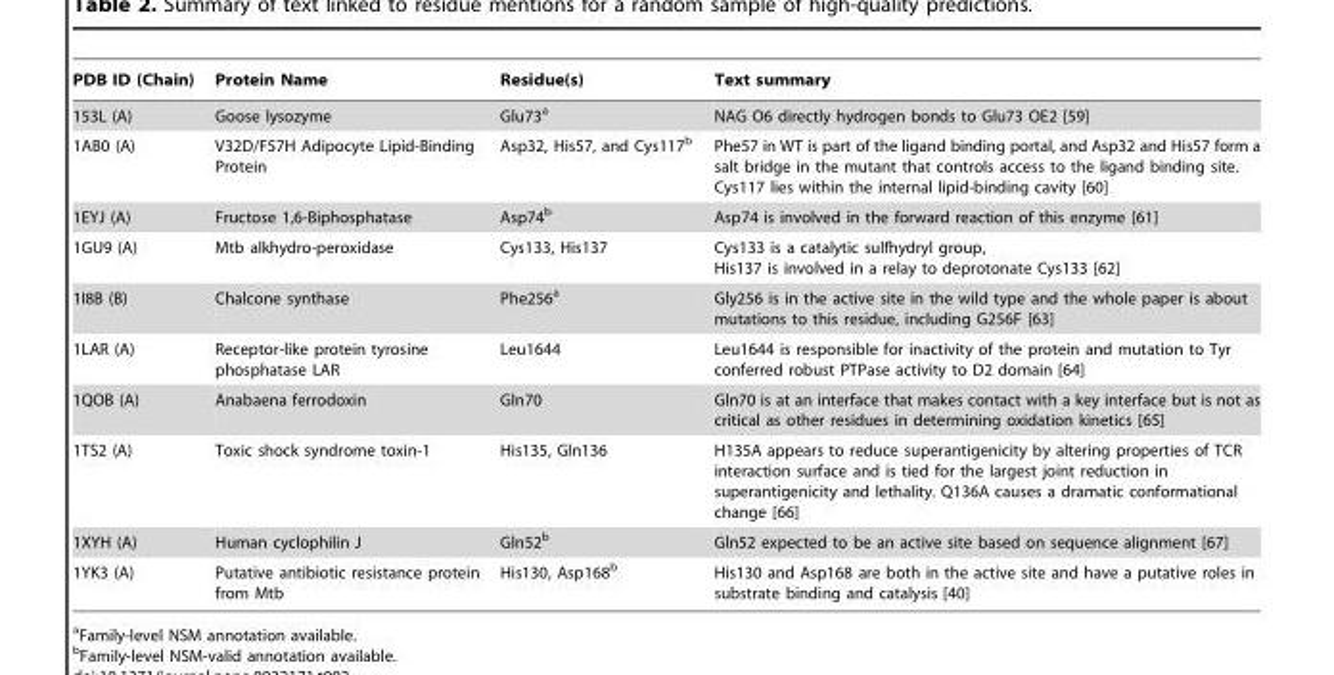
<table><thead><tr><td>PDB ID (Chain)</td><td>Protein Name</td><td>Residue(s)</td><td>Text summary</td></tr></thead><tbody><tr><td>153L (A)</td><td>Goose lysozyme</td><td>Glu73<sup>a</sup></td><td>NAG O6 directly hydrogen bonds to Glu73 OE2 [59]</td></tr><tr><td>1AB0 (A)</td><td>V32D/F57H Adipocyte Lipid-Binding Protein</td><td>Asp32, His57, and Cys117<sup>b</sup></td><td>Phe57 in WT is part of the ligand binding portal, and Asp32 and His57 form a salt bridge in the mutant that controls access to the ligand binding site. Cys117 lies within the internal lipid-binding cavity [60]</td></tr><tr><td>1EYJ (A)</td><td>Fructose 1,6-Biphosphatase</td><td>Asp74<sup>b</sup></td><td>Asp74 is involved in the forward reaction of this enzyme [61]</td></tr><tr><td>1GU9 (A)</td><td>Mtb alkhydro-peroxidase</td><td>Cys133, His137</td><td>Cys133 is a catalytic sulfhydryl group, His137 is involved in a relay to deprotonate Cys133 [62]</td></tr><tr><td>1I8B (B)</td><td>Chalcone synthase</td><td>Phe256<sup>a</sup></td><td>Gly256 is in the active site in the wild type and the whole paper is about mutations to this residue, including G256F [63]</td></tr><tr><td>1LAR (A)</td><td>Receptor-like protein tyrosine phosphatase LAR</td><td>Leu1644</td><td>Leu1644 is responsible for inactivity of the protein and mutation to Tyr conferred robust PTPase activity to D2 domain [64]</td></tr><tr><td>1QOB (A)</td><td>Anabaena ferrodoxin</td><td>Gln70</td><td>Gln70 is at an interface that makes contact with a key interface but is not as critical as other residues in determining oxidation kinetics [65]</td></tr><tr><td>1TS2 (A)</td><td>Toxic shock syndrome toxin-1</td><td>His135, Gln136</td><td>H135A appears to reduce superantigenicity by altering properties of TCR interaction surface and is tied for the largest joint reduction in superantigenicity and lethality. Q136A causes a dramatic conformational change [66]</td></tr><tr><td>1XYH (A)</td><td>Human cyclophilin J</td><td>Gln52<sup>b</sup></td><td>Gln52 expected to be an active site based on sequence alignment [67]</td></tr><tr><td>1YK3 (A)</td><td>Putative antibiotic resistance protein from Mtb</td><td>His130, Asp168<sup>b</sup></td><td>His130 and Asp168 are both in the active site and have a putative roles in substrate binding and catalysis [40]</td></tr></tbody></table>